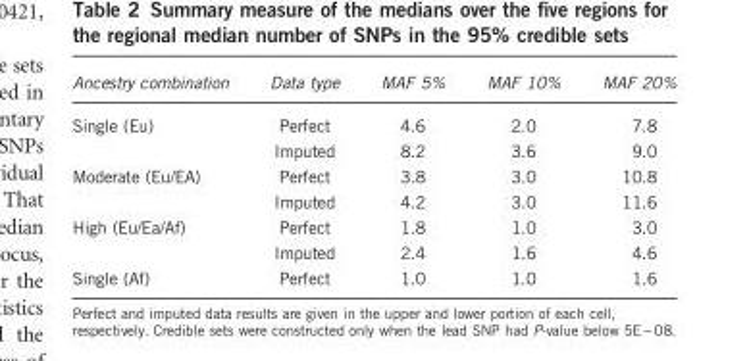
<table><thead><tr><td>Ancestry combination</td><td>Data type</td><td>MAF 5%</td><td>MAF 10%</td><td>MAF 20%</td></tr></thead><tbody><tr><td rowspan="2">Single (Eu)</td><td>Perfect</td><td>4.6</td><td>2.0</td><td>7.8</td></tr><tr><td>Imputed</td><td>8.2</td><td>3.6</td><td>9.0</td></tr><tr><td rowspan="2">Moderate (Eu/EA)</td><td>Perfect</td><td>3.8</td><td>3.0</td><td>10.8</td></tr><tr><td>Imputed</td><td>4.2</td><td>3.0</td><td>11.6</td></tr><tr><td rowspan="2">High (Eu/Ea/Af)</td><td>Perfect</td><td>1.8</td><td>1.0</td><td>3.0</td></tr><tr><td>Imputed</td><td>2.4</td><td>1.6</td><td>4.6</td></tr><tr><td>Single (Af)</td><td>Perfect</td><td>1.0</td><td>1.0</td><td>1.6</td></tr></tbody></table>